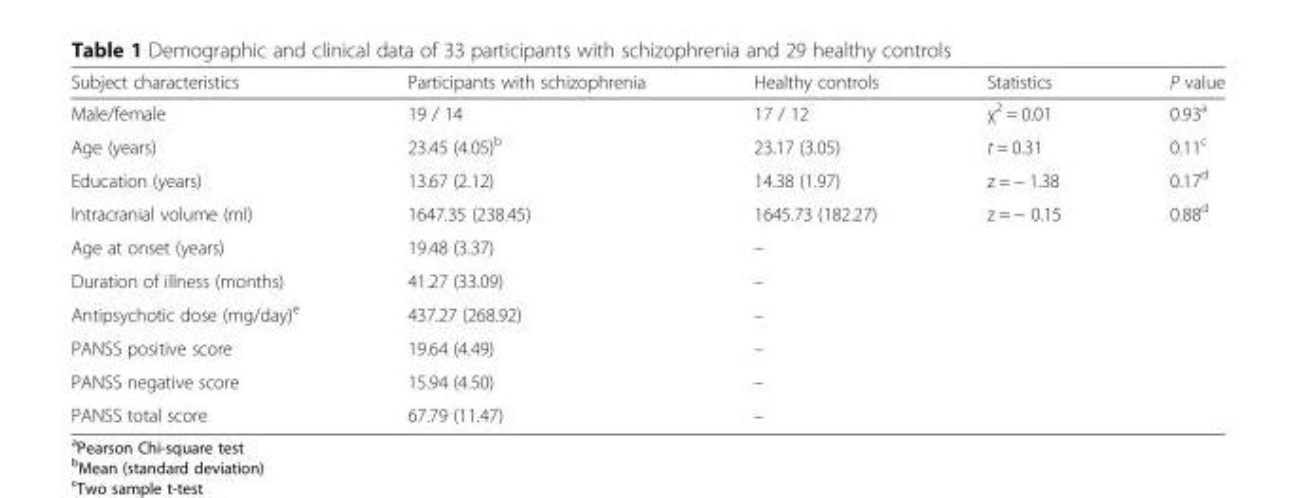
<table><thead><tr><td>Subject characteristics</td><td>Participants with schizophrenia</td><td>Healthy controls</td><td>Statistics</td><td>P value</td></tr></thead><tbody><tr><td>Male/female</td><td>19 / 14</td><td>17 / 12</td><td>χ<sup>2</sup> = 0.01</td><td>0.93<sup>a</sup></td></tr><tr><td>Age (years)</td><td>23.45 (4.05)<sup>b</sup></td><td>23.17 (3.05)</td><td>t = 0.31</td><td>0.11<sup>c</sup></td></tr><tr><td>Education (years)</td><td>13.67 (2.12)</td><td>14.38 (1.97)</td><td>z = − 1.38</td><td>0.17<sup>d</sup></td></tr><tr><td>Intracranial volume (ml)</td><td>1647.35 (238.45)</td><td>1645.73 (182.27)</td><td>z = − 0.15</td><td>0.88<sup>d</sup></td></tr><tr><td>Age at onset (years)</td><td>19.48 (3.37)</td><td colspan="3">–</td></tr><tr><td>Duration of illness (months)</td><td>41.27 (33.09)</td><td colspan="3">–</td></tr><tr><td>Antipsychotic dose (mg/day)<sup>e</sup></td><td>437.27 (268.92)</td><td colspan="3">–</td></tr><tr><td>PANSS positive score</td><td>19.64 (4.49)</td><td colspan="3">–</td></tr><tr><td>PANSS negative score</td><td>15.94 (4.50)</td><td colspan="3">–</td></tr><tr><td>PANSS total score</td><td>67.79 (11.47)</td><td colspan="3">–</td></tr></tbody></table>